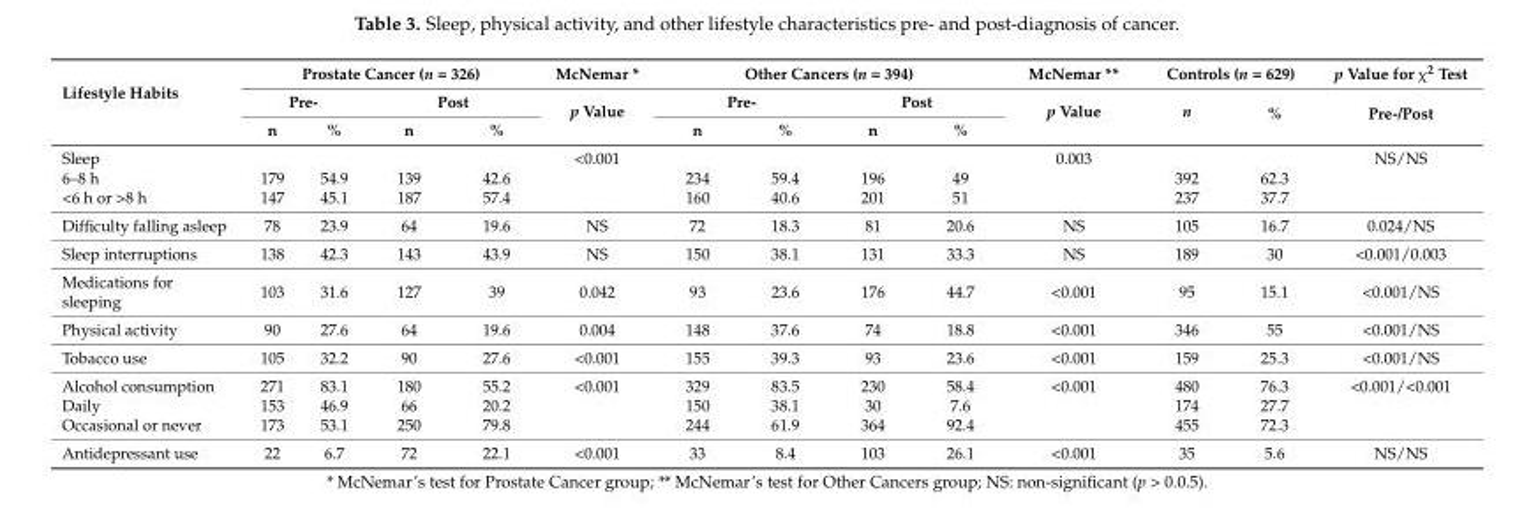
<table><thead><tr><td rowspan="3">Lifestyle Habits</td><td colspan="4">Prostate Cancer (n = 326)</td><td rowspan="3">McNemar * p Value</td><td colspan="4">Other Cancers (n = 394)</td><td rowspan="3">McNemar ** p Value</td><td colspan="2">Controls (n = 629)</td><td rowspan="3">p Value for χ<sup>2</sup> Test Pre-/Post</td></tr><tr><td colspan="2">Pre-</td><td colspan="2">Post</td><td colspan="2">Pre-</td><td colspan="2">Post</td><td rowspan="2">n</td><td rowspan="2">%</td></tr><tr><td>n</td><td>%</td><td>n</td><td>%</td><td>n</td><td>%</td><td>n</td><td>%</td></tr></thead><tbody><tr><td>Sleep</td><td></td><td></td><td></td><td></td><td>&lt;0.001</td><td></td><td></td><td></td><td></td><td>0.003</td><td></td><td></td><td>NS/NS</td></tr><tr><td>6–8 h</td><td>179</td><td>54.9</td><td>139</td><td>42.6</td><td></td><td>234</td><td>59.4</td><td>196</td><td>49</td><td></td><td>392</td><td>62.3</td><td></td></tr><tr><td>&lt;6 h or &gt;8 h</td><td>147</td><td>45.1</td><td>187</td><td>57.4</td><td></td><td>160</td><td>40.6</td><td>201</td><td>51</td><td></td><td>237</td><td>37.7</td><td></td></tr><tr><td>Difficulty falling asleep</td><td>78</td><td>23.9</td><td>64</td><td>19.6</td><td>NS</td><td>72</td><td>18.3</td><td>81</td><td>20.6</td><td>NS</td><td>105</td><td>16.7</td><td>0.024/NS</td></tr><tr><td>Sleep interruptions</td><td>138</td><td>42.3</td><td>143</td><td>43.9</td><td>NS</td><td>150</td><td>38.1</td><td>131</td><td>33.3</td><td>NS</td><td>189</td><td>30</td><td>&lt;0.001/0.003</td></tr><tr><td>Medications for sleeping</td><td>103</td><td>31.6</td><td>127</td><td>39</td><td>0.042</td><td>93</td><td>23.6</td><td>176</td><td>44.7</td><td>&lt;0.001</td><td>95</td><td>15.1</td><td>&lt;0.001/NS</td></tr><tr><td>Physical activity</td><td>90</td><td>27.6</td><td>64</td><td>19.6</td><td>0.004</td><td>148</td><td>37.6</td><td>74</td><td>18.8</td><td>&lt;0.001</td><td>346</td><td>55</td><td>&lt;0.001/NS</td></tr><tr><td>Tobacco use</td><td>105</td><td>32.2</td><td>90</td><td>27.6</td><td>&lt;0.001</td><td>155</td><td>39.3</td><td>93</td><td>23.6</td><td>&lt;0.001</td><td>159</td><td>25.3</td><td>&lt;0.001/NS</td></tr><tr><td>Alcohol consumption</td><td>271</td><td>83.1</td><td>180</td><td>55.2</td><td>&lt;0.001</td><td>329</td><td>83.5</td><td>230</td><td>58.4</td><td>&lt;0.001</td><td>480</td><td>76.3</td><td>&lt;0.001/&lt;0.001</td></tr><tr><td>Daily</td><td>153</td><td>46.9</td><td>66</td><td>20.2</td><td></td><td>150</td><td>38.1</td><td>30</td><td>7.6</td><td></td><td>174</td><td>27.7</td><td></td></tr><tr><td>Occasional or never</td><td>173</td><td>53.1</td><td>250</td><td>79.8</td><td></td><td>244</td><td>61.9</td><td>364</td><td>92.4</td><td></td><td>455</td><td>72.3</td><td></td></tr><tr><td>Antidepressant use</td><td>22</td><td>6.7</td><td>72</td><td>22.1</td><td>&lt;0.001</td><td>33</td><td>8.4</td><td>103</td><td>26.1</td><td>&lt;0.001</td><td>35</td><td>5.6</td><td>NS/NS</td></tr></tbody></table>